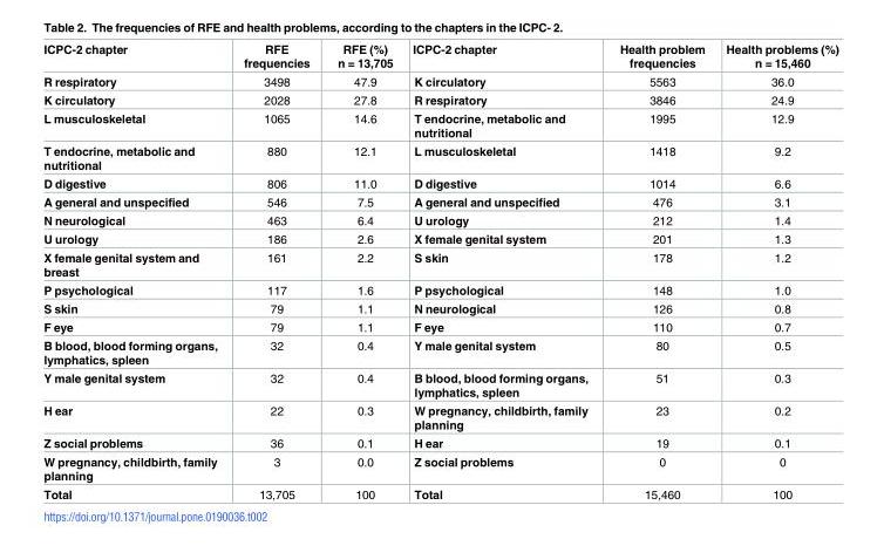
<table><thead><tr><td>ICPC-2 chapter</td><td>RFE frequencies</td><td>RFE (%) n = 13,705</td><td>ICPC-2 chapter</td><td>Health problem frequencies</td><td>Health problems (%) n = 15,460</td></tr></thead><tbody><tr><td>R respiratory</td><td>3498</td><td>47.9</td><td>K circulatory</td><td>5563</td><td>36.0</td></tr><tr><td>K circulatory</td><td>2028</td><td>27.8</td><td>R respiratory</td><td>3846</td><td>24.9</td></tr><tr><td>L musculoskeletal</td><td>1065</td><td>14.6</td><td>T endocrine, metabolic and nutritional</td><td>1995</td><td>12.9</td></tr><tr><td>T endocrine, metabolic and nutritional</td><td>880</td><td>12.1</td><td>L musculoskeletal</td><td>1418</td><td>9.2</td></tr><tr><td>D digestive</td><td>806</td><td>11.0</td><td>D digestive</td><td>1014</td><td>6.6</td></tr><tr><td>A general and unspecified</td><td>546</td><td>7.5</td><td>A general and unspecified</td><td>476</td><td>3.1</td></tr><tr><td>N neurological</td><td>463</td><td>6.4</td><td>U urology</td><td>212</td><td>1.4</td></tr><tr><td>U urology</td><td>186</td><td>2.6</td><td>X female genital system</td><td>201</td><td>1.3</td></tr><tr><td>X female genital system and breast</td><td>161</td><td>2.2</td><td>S skin</td><td>178</td><td>1.2</td></tr><tr><td>P psychological</td><td>117</td><td>1.6</td><td>P psychological</td><td>148</td><td>1.0</td></tr><tr><td>S skin</td><td>79</td><td>1.1</td><td>N neurological</td><td>126</td><td>0.8</td></tr><tr><td>F eye</td><td>79</td><td>1.1</td><td>F eye</td><td>110</td><td>0.7</td></tr><tr><td>B blood, blood forming organs, lymphatics, spleen</td><td>32</td><td>0.4</td><td>Y male genital system</td><td>80</td><td>0.5</td></tr><tr><td>Y male genital system</td><td>32</td><td>0.4</td><td>B blood, blood forming organs, lymphatics, spleen</td><td>51</td><td>0.3</td></tr><tr><td>H ear</td><td>22</td><td>0.3</td><td>W pregnancy, childbirth, family planning</td><td>23</td><td>0.2</td></tr><tr><td>Z social problems</td><td>36</td><td>0.1</td><td>H ear</td><td>19</td><td>0.1</td></tr><tr><td>W pregnancy, childbirth, family planning</td><td>3</td><td>0.0</td><td>Z social problems</td><td>0</td><td>0</td></tr><tr><td>Total</td><td>13,705</td><td>100</td><td>Total</td><td>15,460</td><td>100</td></tr></tbody></table>